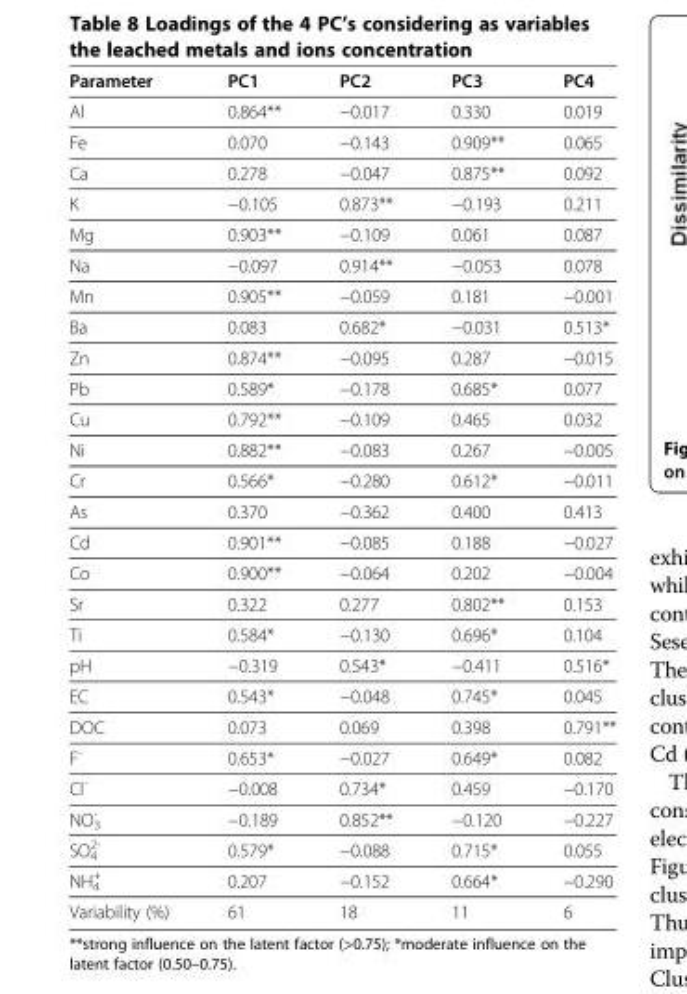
<table><thead><tr><td>Parameter</td><td>PC1</td><td>PC2</td><td>PC3</td><td>PC4</td></tr></thead><tbody><tr><td>Al</td><td>0.864**</td><td>−0.017</td><td>0.330</td><td>0.019</td></tr><tr><td>Fe</td><td>0.070</td><td>−0.143</td><td>0.909**</td><td>0.065</td></tr><tr><td>Ca</td><td>0.278</td><td>−0.047</td><td>0.875**</td><td>0.092</td></tr><tr><td>K</td><td>−0.105</td><td>0.873**</td><td>−0.193</td><td>0.211</td></tr><tr><td>Mg</td><td>0.903**</td><td>−0.109</td><td>0.061</td><td>0.087</td></tr><tr><td>Na</td><td>−0.097</td><td>0.914**</td><td>−0.053</td><td>0.078</td></tr><tr><td>Mn</td><td>0.905**</td><td>−0.059</td><td>0.181</td><td>−0.001</td></tr><tr><td>Ba</td><td>0.083</td><td>0.682*</td><td>−0.031</td><td>0.513*</td></tr><tr><td>Zn</td><td>0.874**</td><td>−0.095</td><td>0.287</td><td>−0.015</td></tr><tr><td>Pb</td><td>0.589*</td><td>−0.178</td><td>0.685*</td><td>0.077</td></tr><tr><td>Cu</td><td>0.792**</td><td>−0.109</td><td>0.465</td><td>0.032</td></tr><tr><td>Ni</td><td>0.882**</td><td>−0.083</td><td>0.267</td><td>−0.005</td></tr><tr><td>Cr</td><td>0.566*</td><td>−0.280</td><td>0.612*</td><td>−0.011</td></tr><tr><td>As</td><td>0.370</td><td>−0.362</td><td>0.400</td><td>0.413</td></tr><tr><td>Cd</td><td>0.901**</td><td>−0.085</td><td>0.188</td><td>−0.027</td></tr><tr><td>Co</td><td>0.900**</td><td>−0.064</td><td>0.202</td><td>−0.004</td></tr><tr><td>Sr</td><td>0.322</td><td>0.277</td><td>0.802**</td><td>0.153</td></tr><tr><td>Ti</td><td>0.584*</td><td>−0.130</td><td>0.696*</td><td>0.104</td></tr><tr><td>pH</td><td>−0.319</td><td>0.543*</td><td>−0.411</td><td>0.516*</td></tr><tr><td>EC</td><td>0.543*</td><td>−0.048</td><td>0.745*</td><td>0.045</td></tr><tr><td>DOC</td><td>0.073</td><td>0.069</td><td>0.398</td><td>0.791**</td></tr><tr><td>F<sup>-</sup></td><td>0.653*</td><td>−0.027</td><td>0.649*</td><td>0.082</td></tr><tr><td>Cl<sup>-</sup></td><td>−0.008</td><td>0.734*</td><td>0.459</td><td>−0.170</td></tr><tr><td>NO<sub>3</sub> <sup>-</sup></td><td>−0.189</td><td>0.852**</td><td>−0.120</td><td>−0.227</td></tr><tr><td>SO<sub>4</sub> <sup>2-</sup></td><td>0.579*</td><td>−0.088</td><td>0.715*</td><td>0.055</td></tr><tr><td>NH<sub>4</sub> <sup>+</sup></td><td>0.207</td><td>−0.152</td><td>0.664*</td><td>−0.290</td></tr><tr><td>Variability (%)</td><td>61</td><td>18</td><td>11</td><td>6</td></tr></tbody></table>